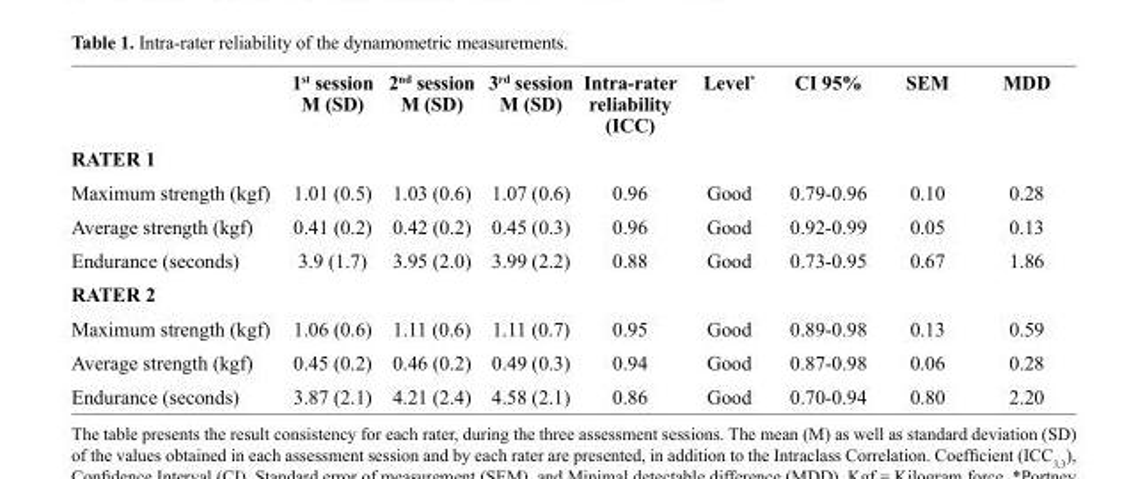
<table><thead><tr><td></td><td>1<sup>st</sup> session M (SD)</td><td>2<sup>nd</sup> session M (SD)</td><td>3<sup>rd</sup> session M (SD)</td><td>Intra-rater reliability (ICC)</td><td>Level*</td><td>CI 95%</td><td>SEM</td><td>MDD</td></tr></thead><tbody><tr><td colspan="9">RATER 1</td></tr><tr><td>Maximum strength (kgf)</td><td>1.01 (0.5)</td><td>1.03 (0.6)</td><td>1.07 (0.6)</td><td>0.96</td><td>Good</td><td>0.79-0.96</td><td>0.10</td><td>0.28</td></tr><tr><td>Average strength (kgf)</td><td>0.41 (0.2)</td><td>0.42 (0.2)</td><td>0.45 (0.3)</td><td>0.96</td><td>Good</td><td>0.92-0.99</td><td>0.05</td><td>0.13</td></tr><tr><td>Endurance (seconds)</td><td>3.9 (1.7)</td><td>3.95 (2.0)</td><td>3.99 (2.2)</td><td>0.88</td><td>Good</td><td>0.73-0.95</td><td>0.67</td><td>1.86</td></tr><tr><td colspan="9">RATER 2</td></tr><tr><td>Maximum strength (kgf)</td><td>1.06 (0.6)</td><td>1.11 (0.6)</td><td>1.11 (0.7)</td><td>0.95</td><td>Good</td><td>0.89-0.98</td><td>0.13</td><td>0.59</td></tr><tr><td>Average strength (kgf)</td><td>0.45 (0.2)</td><td>0.46 (0.2)</td><td>0.49 (0.3)</td><td>0.94</td><td>Good</td><td>0.87-0.98</td><td>0.06</td><td>0.28</td></tr><tr><td>Endurance (seconds)</td><td>3.87 (2.1)</td><td>4.21 (2.4)</td><td>4.58 (2.1)</td><td>0.86</td><td>Good</td><td>0.70-0.94</td><td>0.80</td><td>2.20</td></tr></tbody></table>